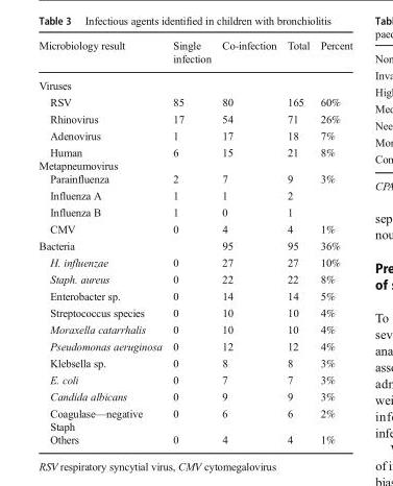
<table><thead><tr><td>Microbiology result</td><td>Single infection</td><td>Co-infection</td><td>Total</td><td>Percent</td></tr></thead><tbody><tr><td colspan="5">Viruses</td></tr><tr><td>RSV</td><td>85</td><td>80</td><td>165</td><td>60%</td></tr><tr><td>Rhinovirus</td><td>17</td><td>54</td><td>71</td><td>26%</td></tr><tr><td>Adenovirus</td><td>1</td><td>17</td><td>18</td><td>7%</td></tr><tr><td>Human Metapneumovirus</td><td>6</td><td>15</td><td>21</td><td>8%</td></tr><tr><td>Parainfluenza</td><td>2</td><td>7</td><td>9</td><td>3%</td></tr><tr><td>Influenza A</td><td>1</td><td>1</td><td>2</td><td></td></tr><tr><td>Influenza B</td><td>1</td><td>0</td><td>1</td><td></td></tr><tr><td>CMV</td><td>0</td><td>4</td><td>4</td><td>1%</td></tr><tr><td>Bacteria</td><td></td><td>95</td><td>95</td><td>36%</td></tr><tr><td>H. influenzae</td><td>0</td><td>27</td><td>27</td><td>10%</td></tr><tr><td>Staph. aureus</td><td>0</td><td>22</td><td>22</td><td>8%</td></tr><tr><td>Enterobacter sp.</td><td>0</td><td>14</td><td>14</td><td>5%</td></tr><tr><td>Streptococcus species</td><td>0</td><td>10</td><td>10</td><td>4%</td></tr><tr><td>Moraxella catarrhalis</td><td>0</td><td>10</td><td>10</td><td>4%</td></tr><tr><td>Pseudomonas aeruginosa</td><td>0</td><td>12</td><td>12</td><td>4%</td></tr><tr><td>Klebsella sp.</td><td>0</td><td>8</td><td>8</td><td>3%</td></tr><tr><td>E. coli</td><td>0</td><td>7</td><td>7</td><td>3%</td></tr><tr><td>Candida albicans</td><td>0</td><td>9</td><td>9</td><td>3%</td></tr><tr><td>Coagulase—negative Staph</td><td>0</td><td>6</td><td>6</td><td>2%</td></tr><tr><td>Others</td><td>0</td><td>4</td><td>4</td><td>1%</td></tr></tbody></table>